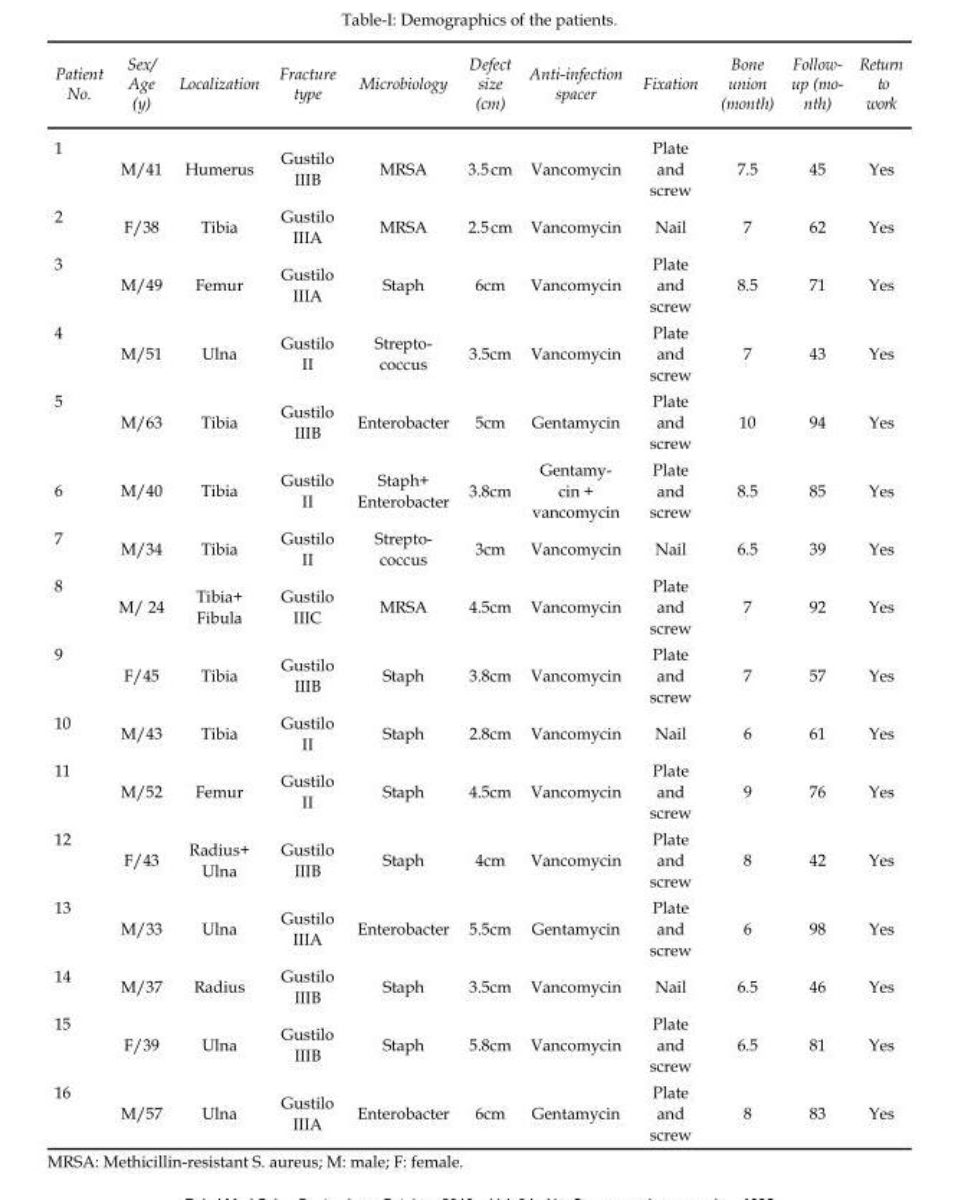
<table><thead><tr><td>Patient No.</td><td>Sex/ Age (y)</td><td>Localization</td><td>Fracture type</td><td>Microbiology</td><td>Defect size (cm)</td><td>Anti-infection spacer</td><td>Fixation</td><td>Bone union (month)</td><td>Follow- up (mo- nth)</td><td>Return to work</td></tr></thead><tbody><tr><td>1</td><td>M/41</td><td>Humerus</td><td>Gustilo IIIB</td><td>MRSA</td><td>3.5 cm</td><td>Vancomycin</td><td>Plate and screw</td><td>7.5</td><td>45</td><td>Yes</td></tr><tr><td>2</td><td>F/38</td><td>Tibia</td><td>Gustilo IIIA</td><td>MRSA</td><td>2.5 cm</td><td>Vancomycin</td><td>Nail</td><td>7</td><td>62</td><td>Yes</td></tr><tr><td>3</td><td>M/49</td><td>Femur</td><td>Gustilo IIIA</td><td>Staph</td><td>6cm</td><td>Vancomycin</td><td>Plate and screw</td><td>8.5</td><td>71</td><td>Yes</td></tr><tr><td>4</td><td>M/51</td><td>Ulna</td><td>Gustilo II</td><td>Strepto- coccus</td><td>3.5cm</td><td>Vancomycin</td><td>Plate and screw</td><td>7</td><td>43</td><td>Yes</td></tr><tr><td>5</td><td>M/63</td><td>Tibia</td><td>Gustilo IIIB</td><td>Enterobacter</td><td>5cm</td><td>Gentamycin</td><td>Plate and screw</td><td>10</td><td>94</td><td>Yes</td></tr><tr><td>6</td><td>M/40</td><td>Tibia</td><td>Gustilo II</td><td>Staph+ Enterobacter</td><td>3.8cm</td><td>Gentamy- cin + vancomycin</td><td>Plate and screw</td><td>8.5</td><td>85</td><td>Yes</td></tr><tr><td>7</td><td>M/34</td><td>Tibia</td><td>Gustilo II</td><td>Strepto- coccus</td><td>3cm</td><td>Vancomycin</td><td>Nail</td><td>6.5</td><td>39</td><td>Yes</td></tr><tr><td>8</td><td>M/ 24</td><td>Tibia+ Fibula</td><td>Gustilo IIIC</td><td>MRSA</td><td>4.5cm</td><td>Vancomycin</td><td>Plate and screw</td><td>7</td><td>92</td><td>Yes</td></tr><tr><td>9</td><td>F/45</td><td>Tibia</td><td>Gustilo IIIB</td><td>Staph</td><td>3.8cm</td><td>Vancomycin</td><td>Plate and screw</td><td>7</td><td>57</td><td>Yes</td></tr><tr><td>10</td><td>M/43</td><td>Tibia</td><td>Gustilo II</td><td>Staph</td><td>2.8cm</td><td>Vancomycin</td><td>Nail</td><td>6</td><td>61</td><td>Yes</td></tr><tr><td>11</td><td>M/52</td><td>Femur</td><td>Gustilo II</td><td>Staph</td><td>4.5cm</td><td>Vancomycin</td><td>Plate and screw</td><td>9</td><td>76</td><td>Yes</td></tr><tr><td>12</td><td>F/43</td><td>Radius+ Ulna</td><td>Gustilo IIIB</td><td>Staph</td><td>4cm</td><td>Vancomycin</td><td>Plate and screw</td><td>8</td><td>42</td><td>Yes</td></tr><tr><td>13</td><td>M/33</td><td>Ulna</td><td>Gustilo IIIA</td><td>Enterobacter</td><td>5.5cm</td><td>Gentamycin</td><td>Plate and screw</td><td>6</td><td>98</td><td>Yes</td></tr><tr><td>14</td><td>M/37</td><td>Radius</td><td>Gustilo IIIB</td><td>Staph</td><td>3.5cm</td><td>Vancomycin</td><td>Nail</td><td>6.5</td><td>46</td><td>Yes</td></tr><tr><td>15</td><td>F/39</td><td>Ulna</td><td>Gustilo IIIB</td><td>Staph</td><td>5.8cm</td><td>Vancomycin</td><td>Plate and screw</td><td>6.5</td><td>81</td><td>Yes</td></tr><tr><td>16</td><td>M/57</td><td>Ulna</td><td>Gustilo IIIA</td><td>Enterobacter</td><td>6cm</td><td>Gentamycin</td><td>Plate and screw</td><td>8</td><td>83</td><td>Yes</td></tr></tbody></table>